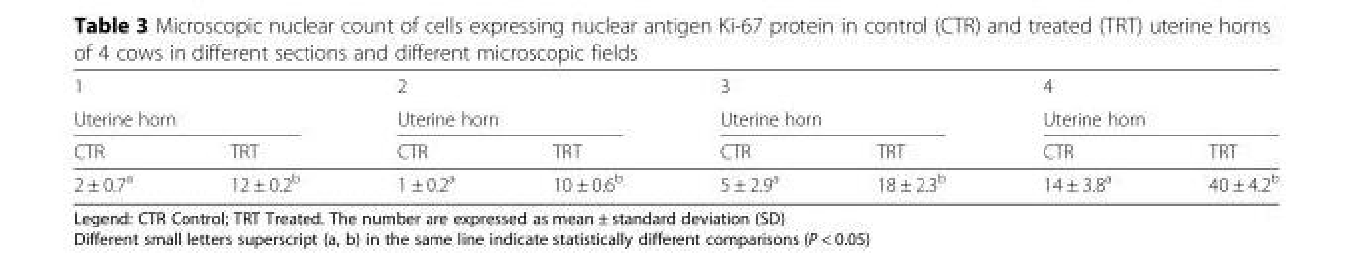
<table><thead><tr><td rowspan="2" colspan="2">1 Uterine horn</td><td rowspan="2" colspan="2">2 Uterine horn</td><td rowspan="2" colspan="2">3 Uterine horn</td><td rowspan="2" colspan="2">4 Uterine horn</td></tr><tr></tr><tr><td>CTR</td><td>TRT</td><td>CTR</td><td>TRT</td><td>CTR</td><td>TRT</td><td>CTR</td><td>TRT</td></tr></thead><tbody><tr><td>2 ± 0.7<sup>a</sup></td><td>12 ± 0.2<sup>b</sup></td><td>1 ± 0.2<sup>a</sup></td><td>10 ± 0.6<sup>b</sup></td><td>5 ± 2.9<sup>a</sup></td><td>18 ± 2.3<sup>b</sup></td><td>14 ± 3.8<sup>a</sup></td><td>40 ± 4.2<sup>b</sup></td></tr></tbody></table>